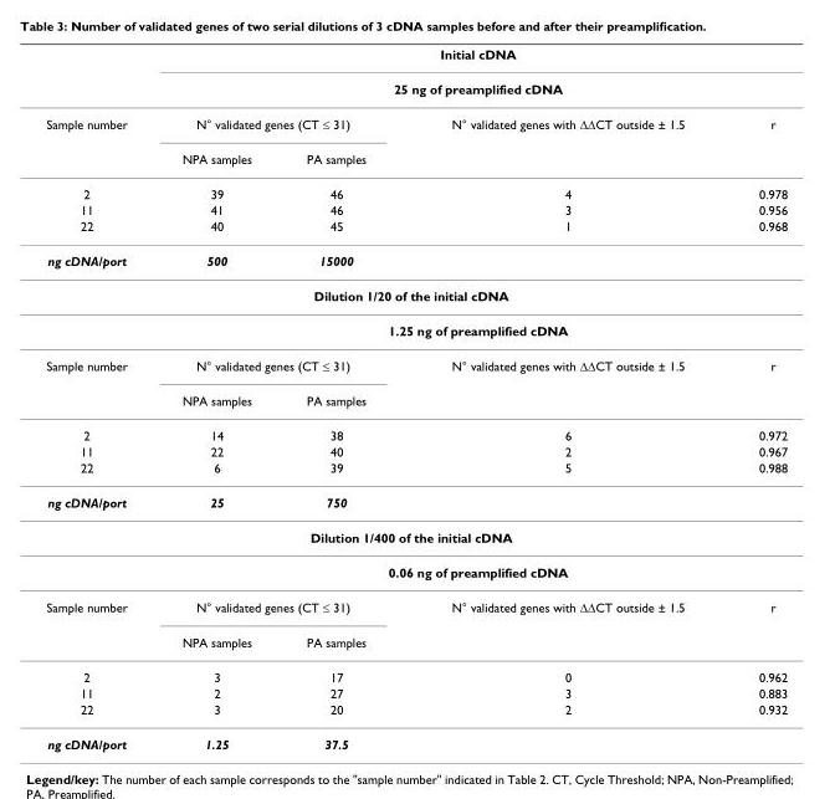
<table><thead><tr><td rowspan="4">Sample number</td><td rowspan="2" colspan="4">Initial cDNA 25 ng of preamplified cDNA</td></tr><tr></tr><tr><td colspan="2">N° validated genes (CT ≤ 31)</td><td rowspan="2">N° validated genes with ΔΔCT outside ± 1.5</td><td rowspan="2">r</td></tr><tr><td>NPA samples</td><td>PA samples</td></tr></thead><tbody><tr><td>2</td><td>39</td><td>46</td><td>4</td><td>0.978</td></tr><tr><td>11</td><td>41</td><td>46</td><td>3</td><td>0.956</td></tr><tr><td>22</td><td>40</td><td>45</td><td>1</td><td>0.968</td></tr><tr><td>ng cDNA/port</td><td>500</td><td>15000</td><td></td><td></td></tr><tr><td colspan="5">Dilution 1/20 of the initial cDNA</td></tr><tr><td></td><td colspan="4">1.25 ng of preamplified cDNA</td></tr><tr><td rowspan="2">Sample number</td><td colspan="2">N° validated genes (CT ≤ 31)</td><td>N° validated genes with ΔΔCT outside ± 1.5</td><td>r</td></tr><tr><td>NPA samples</td><td>PA samples</td><td></td><td></td></tr><tr><td>2</td><td>14</td><td>38</td><td>6</td><td>0.972</td></tr><tr><td>11</td><td>22</td><td>40</td><td>2</td><td>0.967</td></tr><tr><td>22</td><td>6</td><td>39</td><td>5</td><td>0.988</td></tr><tr><td>ng cDNA/port</td><td>25</td><td>750</td><td></td><td></td></tr><tr><td colspan="5">Dilution 1/400 of the initial cDNA</td></tr><tr><td></td><td colspan="4">0.06 ng of preamplified cDNA</td></tr><tr><td rowspan="2">Sample number</td><td colspan="2">N° validated genes (CT ≤ 31)</td><td>N° validated genes with ΔΔCT outside ± 1.5</td><td>r</td></tr><tr><td>NPA samples</td><td>PA samples</td><td></td><td></td></tr><tr><td>2</td><td>3</td><td>17</td><td>0</td><td>0.962</td></tr><tr><td>11</td><td>2</td><td>27</td><td>3</td><td>0.883</td></tr><tr><td>22</td><td>3</td><td>20</td><td>2</td><td>0.932</td></tr><tr><td>ng cDNA/port</td><td>1.25</td><td>37.5</td><td></td><td></td></tr></tbody></table>